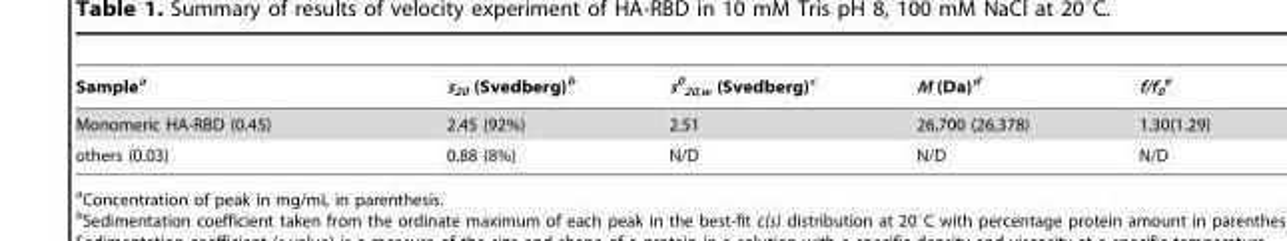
<table><thead><tr><td>Sample<sup>a</sup></td><td>s<sub>20</sub> (Svedberg)<sup>b</sup></td><td>s<sup>0</sup> <sub>20,w</sub> (Svedberg)<sup>c</sup></td><td>M (Da)<sup>d</sup></td><td>f/f<sub>0</sub> e</td></tr></thead><tbody><tr><td>Monomeric HA-RBD (0.45)</td><td>2.45 (92%)</td><td>2.51</td><td>26,700 (26,378)</td><td>1.30(1.29)</td></tr><tr><td>others (0.03)</td><td>0.88 (8%)</td><td>N/D</td><td>N/D</td><td>N/D</td></tr></tbody></table>